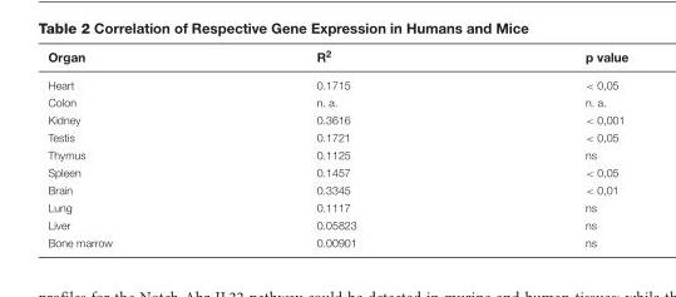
<table><thead><tr><td>Organ</td><td>R<sup>2</sup></td><td>p value</td></tr></thead><tbody><tr><td>Heart</td><td>0.1715</td><td>&lt; 0,05</td></tr><tr><td>Colon</td><td>n. a.</td><td>n. a.</td></tr><tr><td>Kidney</td><td>0.3616</td><td>&lt; 0,001</td></tr><tr><td>Testis</td><td>0.1721</td><td>&lt; 0,05</td></tr><tr><td>Thymus</td><td>0.1125</td><td>ns</td></tr><tr><td>Spleen</td><td>0.1457</td><td>&lt; 0,05</td></tr><tr><td>Brain</td><td>0.3345</td><td>&lt; 0,01</td></tr><tr><td>Lung</td><td>0.1117</td><td>ns</td></tr><tr><td>Liver</td><td>0.05823</td><td>ns</td></tr><tr><td>Bone marrow</td><td>0.00901</td><td>ns</td></tr></tbody></table>